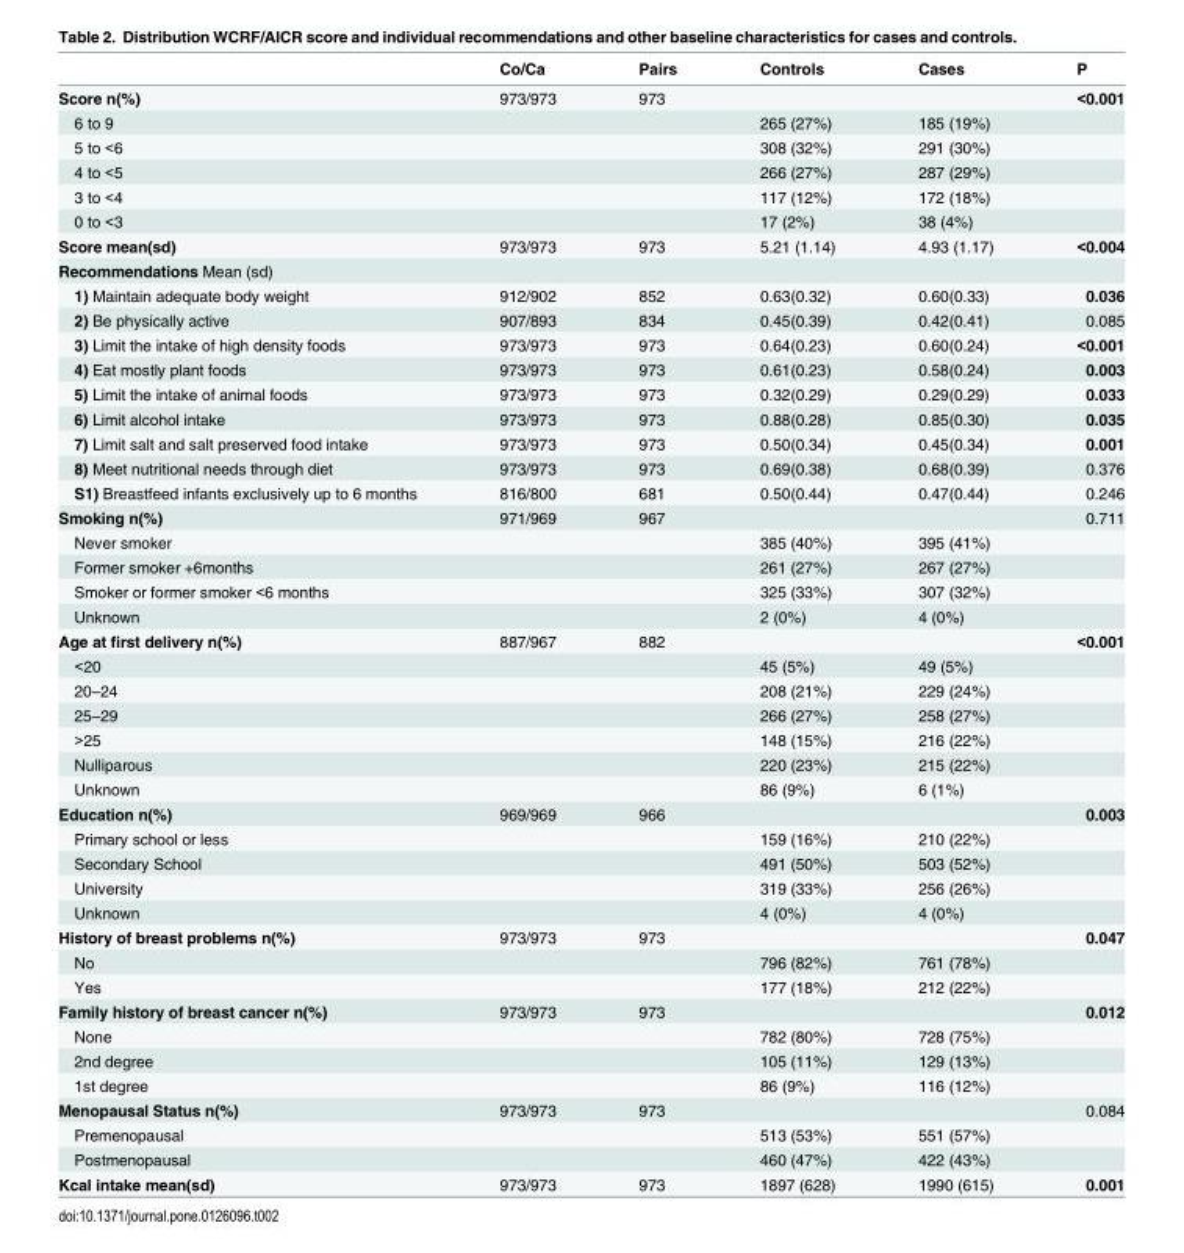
<table><thead><tr><td></td><td>Co/Ca</td><td>Pairs</td><td>Controls</td><td>Cases</td><td>P</td></tr></thead><tbody><tr><td>Score n(%)</td><td>973/973</td><td>973</td><td></td><td></td><td>&lt;0.001</td></tr><tr><td>6 to 9</td><td></td><td></td><td>265 (27%)</td><td>185 (19%)</td><td></td></tr><tr><td>5 to &lt;6</td><td></td><td></td><td>308 (32%)</td><td>291 (30%)</td><td></td></tr><tr><td>4 to &lt;5</td><td></td><td></td><td>266 (27%)</td><td>287 (29%)</td><td></td></tr><tr><td>3 to &lt;4</td><td></td><td></td><td>117 (12%)</td><td>172 (18%)</td><td></td></tr><tr><td>0 to &lt;3</td><td></td><td></td><td>17 (2%)</td><td>38 (4%)</td><td></td></tr><tr><td>Score mean(sd)</td><td>973/973</td><td>973</td><td>5.21 (1.14)</td><td>4.93 (1.17)</td><td>&lt;0.004</td></tr><tr><td colspan="6">Recommendations Mean (sd)</td></tr><tr><td>1) Maintain adequate body weight</td><td>912/902</td><td>852</td><td>0.63(0.32)</td><td>0.60(0.33)</td><td>0.036</td></tr><tr><td>2) Be physically active</td><td>907/893</td><td>834</td><td>0.45(0.39)</td><td>0.42(0.41)</td><td>0.085</td></tr><tr><td>3) Limit the intake of high density foods</td><td>973/973</td><td>973</td><td>0.64(0.23)</td><td>0.60(0.24)</td><td>&lt;0.001</td></tr><tr><td>4) Eat mostly plant foods</td><td>973/973</td><td>973</td><td>0.61(0.23)</td><td>0.58(0.24)</td><td>0.003</td></tr><tr><td>5) Limit the intake of animal foods</td><td>973/973</td><td>973</td><td>0.32(0.29)</td><td>0.29(0.29)</td><td>0.033</td></tr><tr><td>6) Limit alcohol intake</td><td>973/973</td><td>973</td><td>0.88(0.28)</td><td>0.85(0.30)</td><td>0.035</td></tr><tr><td>7) Limit salt and salt preserved food intake</td><td>973/973</td><td>973</td><td>0.50(0.34)</td><td>0.45(0.34)</td><td>0.001</td></tr><tr><td>8) Meet nutritional needs through diet</td><td>973/973</td><td>973</td><td>0.69(0.38)</td><td>0.68(0.39)</td><td>0.376</td></tr><tr><td>S1) Breastfeed infants exclusively up to 6 months</td><td>816/800</td><td>681</td><td>0.50(0.44)</td><td>0.47(0.44)</td><td>0.246</td></tr><tr><td>Smoking n(%)</td><td>971/969</td><td>967</td><td></td><td></td><td>0.711</td></tr><tr><td>Never smoker</td><td></td><td></td><td>385 (40%)</td><td>395 (41%)</td><td></td></tr><tr><td>Former smoker +6months</td><td></td><td></td><td>261 (27%)</td><td>267 (27%)</td><td></td></tr><tr><td>Smoker or former smoker &lt;6 months</td><td></td><td></td><td>325 (33%)</td><td>307 (32%)</td><td></td></tr><tr><td>Unknown</td><td></td><td></td><td>2 (0%)</td><td>4 (0%)</td><td></td></tr><tr><td>Age at first delivery n(%)</td><td>887/967</td><td>882</td><td></td><td></td><td>&lt;0.001</td></tr><tr><td>&lt;20</td><td></td><td></td><td>45 (5%)</td><td>49 (5%)</td><td></td></tr><tr><td>20–24</td><td></td><td></td><td>208 (21%)</td><td>229 (24%)</td><td></td></tr><tr><td>25–29</td><td></td><td></td><td>266 (27%)</td><td>258 (27%)</td><td></td></tr><tr><td>&gt;25</td><td></td><td></td><td>148 (15%)</td><td>216 (22%)</td><td></td></tr><tr><td>Nulliparous</td><td></td><td></td><td>220 (23%)</td><td>215 (22%)</td><td></td></tr><tr><td>Unknown</td><td></td><td></td><td>86 (9%)</td><td>6 (1%)</td><td></td></tr><tr><td>Education n(%)</td><td>969/969</td><td>966</td><td></td><td></td><td>0.003</td></tr><tr><td>Primary school or less</td><td></td><td></td><td>159 (16%)</td><td>210 (22%)</td><td></td></tr><tr><td>Secondary School</td><td></td><td></td><td>491 (50%)</td><td>503 (52%)</td><td></td></tr><tr><td>University</td><td></td><td></td><td>319 (33%)</td><td>256 (26%)</td><td></td></tr><tr><td>Unknown</td><td></td><td></td><td>4 (0%)</td><td>4 (0%)</td><td></td></tr><tr><td>History of breast problems n(%)</td><td>973/973</td><td>973</td><td></td><td></td><td>0.047</td></tr><tr><td>No</td><td></td><td></td><td>796 (82%)</td><td>761 (78%)</td><td></td></tr><tr><td>Yes</td><td></td><td></td><td>177 (18%)</td><td>212 (22%)</td><td></td></tr><tr><td>Family history of breast cancer n(%)</td><td>973/973</td><td>973</td><td></td><td></td><td>0.012</td></tr><tr><td>None</td><td></td><td></td><td>782 (80%)</td><td>728 (75%)</td><td></td></tr><tr><td>2nd degree</td><td></td><td></td><td>105 (11%)</td><td>129 (13%)</td><td></td></tr><tr><td>1st degree</td><td></td><td></td><td>86 (9%)</td><td>116 (12%)</td><td></td></tr><tr><td>Menopausal Status n(%)</td><td>973/973</td><td>973</td><td></td><td></td><td>0.084</td></tr><tr><td>Premenopausal</td><td></td><td></td><td>513 (53%)</td><td>551 (57%)</td><td></td></tr><tr><td>Postmenopausal</td><td></td><td></td><td>460 (47%)</td><td>422 (43%)</td><td></td></tr><tr><td>Kcal intake mean(sd)</td><td>973/973</td><td>973</td><td>1897 (628)</td><td>1990 (615)</td><td>0.001</td></tr></tbody></table>